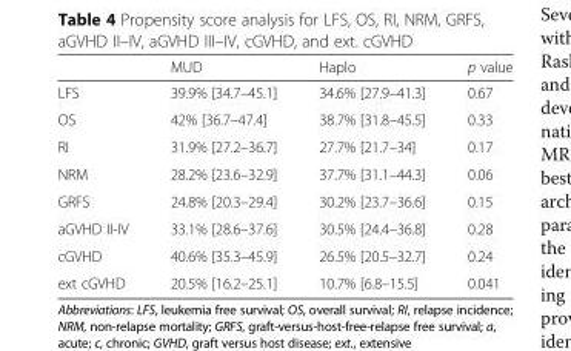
<table><thead><tr><td></td><td>MUD</td><td>Haplo</td><td>p value</td></tr></thead><tbody><tr><td>LFS</td><td>39.9% [34.7–45.1]</td><td>34.6% [27.9–41.3]</td><td>0.67</td></tr><tr><td>OS</td><td>42% [36.7–47.4]</td><td>38.7% [31.8–45.5]</td><td>0.33</td></tr><tr><td>RI</td><td>31.9% [27.2–36.7]</td><td>27.7% [21.7–34]</td><td>0.17</td></tr><tr><td>NRM</td><td>28.2% [23.6–32.9]</td><td>37.7% [31.1–44.3]</td><td>0.06</td></tr><tr><td>GRFS</td><td>24.8% [20.3–29.4]</td><td>30.2% [23.7–36.6]</td><td>0.15</td></tr><tr><td>aGVHD II-IV</td><td>33.1% [28.6–37.6]</td><td>30.5% [24.4–36.8]</td><td>0.28</td></tr><tr><td>cGVHD</td><td>40.6% [35.3–45.9]</td><td>26.5% [20.5–32.7]</td><td>0.24</td></tr><tr><td>ext cGVHD</td><td>20.5% [16.2–25.1]</td><td>10.7% [6.8–15.5]</td><td>0.041</td></tr></tbody></table>